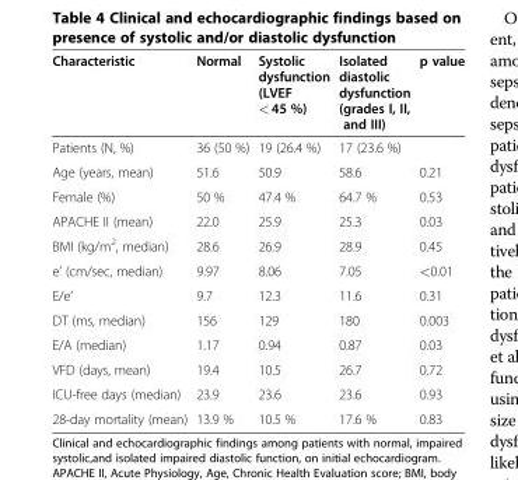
<table><thead><tr><td>Characteristic</td><td>Normal</td><td>Systolic dysfunction (LVEF &lt; 45 %)</td><td>Isolated diastolic dysfunction (grades I, II, and III)</td><td>p value</td></tr></thead><tbody><tr><td>Patients (N, %)</td><td>36 (50 %)</td><td>19 (26.4 %)</td><td>17 (23.6 %)</td><td></td></tr><tr><td>Age (years, mean)</td><td>51.6</td><td>50.9</td><td>58.6</td><td>0.21</td></tr><tr><td>Female (%)</td><td>50 %</td><td>47.4 %</td><td>64.7 %</td><td>0.53</td></tr><tr><td>APACHE II (mean)</td><td>22.0</td><td>25.9</td><td>25.3</td><td>0.03</td></tr><tr><td>BMI (kg/m<sup>2</sup>, median)</td><td>28.6</td><td>26.9</td><td>28.9</td><td>0.45</td></tr><tr><td>e’ (cm/sec, median)</td><td>9.97</td><td>8.06</td><td>7.05</td><td>&lt;0.01</td></tr><tr><td>E/e’</td><td>9.7</td><td>12.3</td><td>11.6</td><td>0.31</td></tr><tr><td>DT (ms, median)</td><td>156</td><td>129</td><td>180</td><td>0.003</td></tr><tr><td>E/A (median)</td><td>1.17</td><td>0.94</td><td>0.87</td><td>0.03</td></tr><tr><td>VFD (days, mean)</td><td>19.4</td><td>10.5</td><td>26.7</td><td>0.72</td></tr><tr><td>ICU-free days (median)</td><td>23.9</td><td>23.6</td><td>23.6</td><td>0.93</td></tr><tr><td>28-day mortality (mean)</td><td>13.9 %</td><td>10.5 %</td><td>17.6 %</td><td>0.83</td></tr></tbody></table>